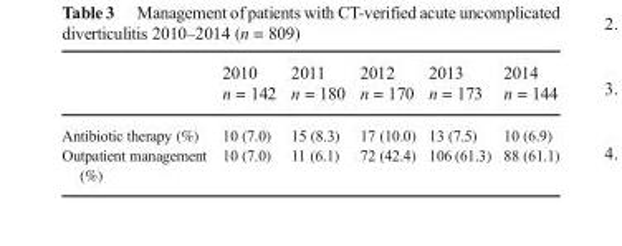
<table><thead><tr><td></td><td>2010 n = 142</td><td>2011 n = 180</td><td>2012 n = 170</td><td>2013 n = 173</td><td>2014 n = 144</td></tr></thead><tbody><tr><td>Antibiotic therapy (%)</td><td>10 (7.0)</td><td>15 (8.3)</td><td>17 (10.0)</td><td>13 (7.5)</td><td>10 (6.9)</td></tr><tr><td>Outpatient management (%)</td><td>10 (7.0)</td><td>11 (6.1)</td><td>72 (42.4)</td><td>106 (61.3)</td><td>88 (61.1)</td></tr></tbody></table>